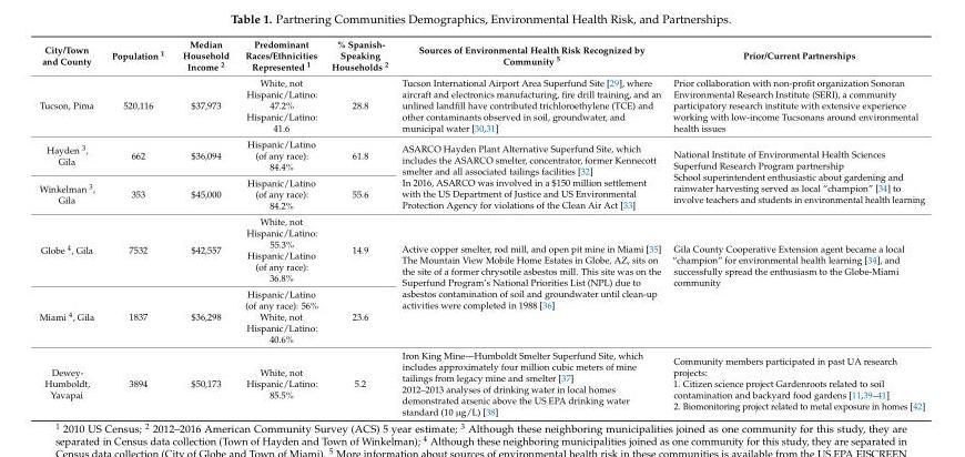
<table><thead><tr><td>City/Town and County</td><td>Population <sup>1</sup></td><td>Median Household Income <sup>2</sup></td><td>Predominant Races/Ethnicities Represented <sup>1</sup></td><td>% Spanish- Speaking Households <sup>2</sup></td><td>Sources of Environmental Health Risk Recognized by Community <sup>5</sup></td><td>Prior/Current Partnerships</td></tr></thead><tbody><tr><td>Tucson, Pima</td><td>520,116</td><td>$37,973</td><td>White, not Hispanic/Latino: 47.2% Hispanic/Latino: 41.6</td><td>28.8</td><td>Tucson International Airport Area Superfund Site [29], where aircraft and electronics manufacturing, fire drill training, and an unlined landfill have contributed trichloroethylene (TCE) and other contaminants observed in soil, groundwater, and municipal water [30,31]</td><td>Prior collaboration with non-profit organization Sonoran Environmental Research Institute (SERI), a community participatory research institute with extensive experience working with low-income Tucsonans around environmental health issues</td></tr><tr><td>Hayden <sup>3</sup>, Gila</td><td>662</td><td>$36,094</td><td>Hispanic/Latino (of any race): 84.4%</td><td>61.8</td><td rowspan="2">ASARCO Hayden Plant Alternative Superfund Site, which includes the ASARCO smelter, concentrator, former Kennecott smelter and all associated tailings facilities [32] In 2016, ASARCO was involved in a $150 million settlement with the US Department of Justice and US Environmental Protection Agency for violations of the Clean Air Act [33]</td><td rowspan="2">National Institute of Environmental Health Sciences Superfund Research Program partnership School superintendent enthusiastic about gardening and rainwater harvesting served as local “champion” [34] to involve teachers and students in environmental health learning</td></tr><tr><td>Winkelman <sup>3</sup>, Gila</td><td>353</td><td>$45,000</td><td>Hispanic/Latino (of any race): 84.2%</td><td>55.6</td></tr><tr><td>Globe <sup>4</sup>, Gila</td><td>7532</td><td>$42,557</td><td>White, not Hispanic/Latino: 55.3% Hispanic/Latino (of any race): 36.8%</td><td>14.9</td><td rowspan="2">Active copper smelter, rod mill, and open pit mine in Miami [35] The Mountain View Mobile Home Estates in Globe, AZ, sits on the site of a former chrysotile asbestos mill. This site was on the Superfund Program’s National Priorities List (NPL) due to asbestos contamination of soil and groundwater until clean-up activities were completed in 1988 [36]</td><td rowspan="2">Gila County Cooperative Extension agent became a local “champion” for environmental health learning [34], and successfully spread the enthusiasm to the Globe-Miami community</td></tr><tr><td>Miami <sup>4</sup>, Gila</td><td>1837</td><td>$36,298</td><td>Hispanic/Latino (of any race): 56% White, not Hispanic/Latino: 40.6%</td><td>23.6</td></tr><tr><td>Dewey- Humboldt, Yavapai</td><td>3894</td><td>$50,173</td><td>White, not Hispanic/Latino: 85.5%</td><td>5.2</td><td>Iron King Mine—Humboldt Smelter Superfund Site, which includes approximately four million cubic meters of mine tailings from legacy mine and smelter [37] 2012–2013 analyses of drinking water in local homes demonstrated arsenic above the US EPA drinking water standard (10 µg/L) [38]</td><td>Community members participated in past UA research projects: 1. Citizen science project Gardenroots related to soil contamination and backyard food gardens [11,39–41] 2. Biomonitoring project related to metal exposure in homes [42]</td></tr></tbody></table>